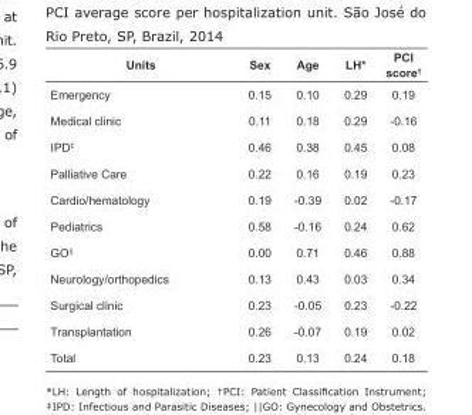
<table><tbody><tr><td>Units</td><td>Sex</td><td>Age</td><td>LH*</td><td>PCI score<sup>†</sup></td></tr><tr><td>Emergency</td><td>0.15</td><td>0.10</td><td>0.29</td><td>0.19</td></tr><tr><td>Medical clinic</td><td>0.11</td><td>0.18</td><td>0.29</td><td>-0.16</td></tr><tr><td>IPD<sup>‡</sup></td><td>0.46</td><td>0.38</td><td>0.45</td><td>0.08</td></tr><tr><td>Palliative Care</td><td>0.22</td><td>0.16</td><td>0.19</td><td>0.23</td></tr><tr><td>Cardio/hematology</td><td>0.19</td><td>-0.39</td><td>0.02</td><td>-0.17</td></tr><tr><td>Pediatrics</td><td>0.58</td><td>-0.16</td><td>0.24</td><td>0.62</td></tr><tr><td>GO<sup>||</sup></td><td>0.00</td><td>0.71</td><td>0.46</td><td>0.88</td></tr><tr><td>Neurology/orthopedics</td><td>0.13</td><td>0.43</td><td>0.03</td><td>0.34</td></tr><tr><td>Surgical clinic</td><td>0.23</td><td>-0.05</td><td>0.23</td><td>-0.22</td></tr><tr><td>Transplantation</td><td>0.26</td><td>-0.07</td><td>0.19</td><td>0.02</td></tr><tr><td>Total</td><td>0.23</td><td>0.13</td><td>0.24</td><td>0.18</td></tr></tbody></table>